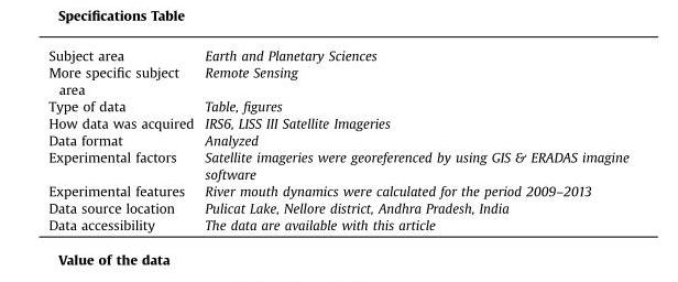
<table><tbody><tr><td>Subject area</td><td>Earth and Planetary Sciences</td></tr><tr><td>More specific subject area</td><td>Remote Sensing</td></tr><tr><td>Type of data</td><td>Table, figures</td></tr><tr><td>How data was acquired</td><td>IRS6, LISS III Satellite Imageries</td></tr><tr><td>Data format</td><td>Analyzed</td></tr><tr><td>Experimental factors</td><td>Satellite imageries were georeferenced by using GIS &amp; ERADAS imagine software</td></tr><tr><td>Experimental features</td><td>River mouth dynamics were calculated for the period 2009–2013</td></tr><tr><td>Data source location</td><td>Pulicat Lake, Nellore district, Andhra Pradesh, India</td></tr><tr><td>Data accessibility</td><td>The data are available with this article</td></tr></tbody></table>